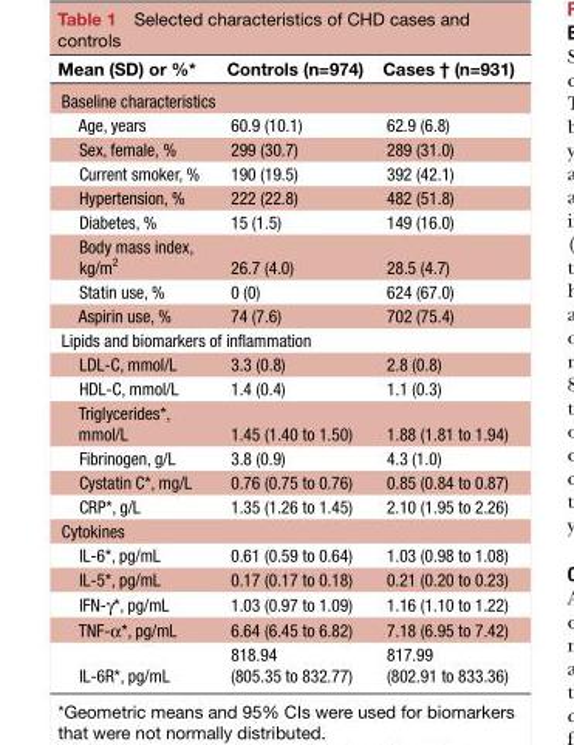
<table><thead><tr><td>Mean (SD) or %*</td><td>Controls (n=974)</td><td>Cases † (n=931)</td></tr></thead><tbody><tr><td colspan="3">Baseline characteristics</td></tr><tr><td>Age, years</td><td>60.9 (10.1)</td><td>62.9 (6.8)</td></tr><tr><td>Sex, female, %</td><td>299 (30.7)</td><td>289 (31.0)</td></tr><tr><td>Current smoker, %</td><td>190 (19.5)</td><td>392 (42.1)</td></tr><tr><td>Hypertension, %</td><td>222 (22.8)</td><td>482 (51.8)</td></tr><tr><td>Diabetes, %</td><td>15 (1.5)</td><td>149 (16.0)</td></tr><tr><td>Body mass index, kg/m<sup>2</sup></td><td>26.7 (4.0)</td><td>28.5 (4.7)</td></tr><tr><td>Statin use, %</td><td>0 (0)</td><td>624 (67.0)</td></tr><tr><td>Aspirin use, %</td><td>74 (7.6)</td><td>702 (75.4)</td></tr><tr><td colspan="3">Lipids and biomarkers of inflammation</td></tr><tr><td>LDL-C, mmol/L</td><td>3.3 (0.8)</td><td>2.8 (0.8)</td></tr><tr><td>HDL-C, mmol/L</td><td>1.4 (0.4)</td><td>1.1 (0.3)</td></tr><tr><td>Triglycerides*, mmol/L</td><td>1.45 (1.40 to 1.50)</td><td>1.88 (1.81 to 1.94)</td></tr><tr><td>Fibrinogen, g/L</td><td>3.8 (0.9)</td><td>4.3 (1.0)</td></tr><tr><td>Cystatin C*, mg/L</td><td>0.76 (0.75 to 0.76)</td><td>0.85 (0.84 to 0.87)</td></tr><tr><td>CRP*, g/L</td><td>1.35 (1.26 to 1.45)</td><td>2.10 (1.95 to 2.26)</td></tr><tr><td colspan="3">Cytokines</td></tr><tr><td>IL-6*, pg/mL</td><td>0.61 (0.59 to 0.64)</td><td>1.03 (0.98 to 1.08)</td></tr><tr><td>IL-5*, pg/mL</td><td>0.17 (0.17 to 0.18)</td><td>0.21 (0.20 to 0.23)</td></tr><tr><td>IFN-γ*, pg/mL</td><td>1.03 (0.97 to 1.09)</td><td>1.16 (1.10 to 1.22)</td></tr><tr><td>TNF-α*, pg/mL</td><td>6.64 (6.45 to 6.82)</td><td>7.18 (6.95 to 7.42)</td></tr><tr><td>IL-6R*, pg/mL</td><td>818.94 (805.35 to 832.77)</td><td>817.99 (802.91 to 833.36)</td></tr></tbody></table>